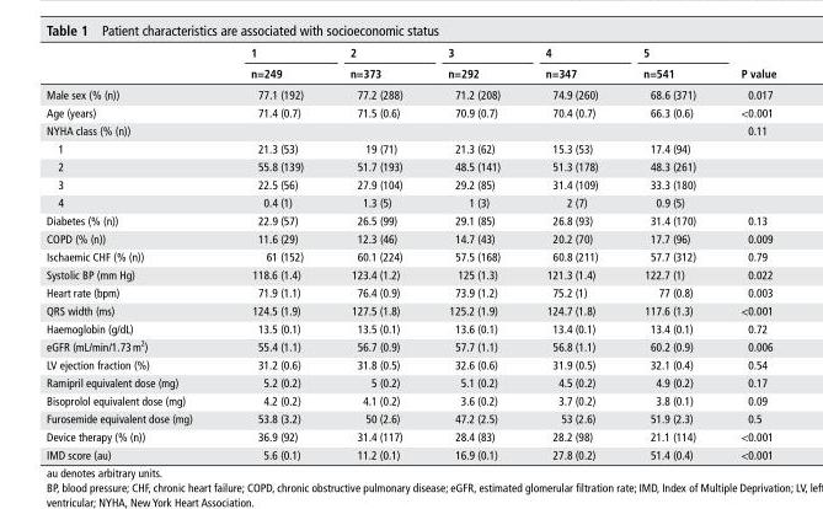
<table><thead><tr><td rowspan="2"></td><td rowspan="2">1 n=249</td><td rowspan="2">2 n=373</td><td rowspan="2">3 n=292</td><td rowspan="2">4 n=347</td><td rowspan="2">5 n=541</td><td rowspan="2">P value</td></tr><tr></tr></thead><tbody><tr><td>Male sex (% (n))</td><td>77.1 (192)</td><td>77.2 (288)</td><td>71.2 (208)</td><td>74.9 (260)</td><td>68.6 (371)</td><td>0.017</td></tr><tr><td>Age (years)</td><td>71.4 (0.7)</td><td>71.5 (0.6)</td><td>70.9 (0.7)</td><td>70.4 (0.7)</td><td>66.3 (0.6)</td><td>&lt;0.001</td></tr><tr><td>NYHA class (% (n))</td><td></td><td></td><td></td><td></td><td></td><td>0.11</td></tr><tr><td>1</td><td>21.3 (53)</td><td>19 (71)</td><td>21.3 (62)</td><td>15.3 (53)</td><td>17.4 (94)</td><td></td></tr><tr><td>2</td><td>55.8 (139)</td><td>51.7 (193)</td><td>48.5 (141)</td><td>51.3 (178)</td><td>48.3 (261)</td><td></td></tr><tr><td>3</td><td>22.5 (56)</td><td>27.9 (104)</td><td>29.2 (85)</td><td>31.4 (109)</td><td>33.3 (180)</td><td></td></tr><tr><td>4</td><td>0.4 (1)</td><td>1.3 (5)</td><td>1 (3)</td><td>2 (7)</td><td>0.9 (5)</td><td></td></tr><tr><td>Diabetes (% (n))</td><td>22.9 (57)</td><td>26.5 (99)</td><td>29.1 (85)</td><td>26.8 (93)</td><td>31.4 (170)</td><td>0.13</td></tr><tr><td>COPD (% (n))</td><td>11.6 (29)</td><td>12.3 (46)</td><td>14.7 (43)</td><td>20.2 (70)</td><td>17.7 (96)</td><td>0.009</td></tr><tr><td>Ischaemic CHF (% (n))</td><td>61 (152)</td><td>60.1 (224)</td><td>57.5 (168)</td><td>60.8 (211)</td><td>57.7 (312)</td><td>0.79</td></tr><tr><td>Systolic BP (mm Hg)</td><td>118.6 (1.4)</td><td>123.4 (1.2)</td><td>125 (1.3)</td><td>121.3 (1.4)</td><td>122.7 (1)</td><td>0.022</td></tr><tr><td>Heart rate (bpm)</td><td>71.9 (1.1)</td><td>76.4 (0.9)</td><td>73.9 (1.2)</td><td>75.2 (1)</td><td>77 (0.8)</td><td>0.003</td></tr><tr><td>QRS width (ms)</td><td>124.5 (1.9)</td><td>127.5 (1.8)</td><td>125.2 (1.9)</td><td>124.7 (1.8)</td><td>117.6 (1.3)</td><td>&lt;0.001</td></tr><tr><td>Haemoglobin (g/dL)</td><td>13.5 (0.1)</td><td>13.5 (0.1)</td><td>13.6 (0.1)</td><td>13.4 (0.1)</td><td>13.4 (0.1)</td><td>0.72</td></tr><tr><td>eGFR (mL/min/1.73 m<sup>2</sup>)</td><td>55.4 (1.1)</td><td>56.7 (0.9)</td><td>57.7 (1.1)</td><td>56.8 (1.1)</td><td>60.2 (0.9)</td><td>0.006</td></tr><tr><td>LV ejection fraction (%)</td><td>31.2 (0.6)</td><td>31.8 (0.5)</td><td>32.6 (0.6)</td><td>31.9 (0.5)</td><td>32.1 (0.4)</td><td>0.54</td></tr><tr><td>Ramipril equivalent dose (mg)</td><td>5.2 (0.2)</td><td>5 (0.2)</td><td>5.1 (0.2)</td><td>4.5 (0.2)</td><td>4.9 (0.2)</td><td>0.17</td></tr><tr><td>Bisoprolol equivalent dose (mg)</td><td>4.2 (0.2)</td><td>4.1 (0.2)</td><td>3.6 (0.2)</td><td>3.7 (0.2)</td><td>3.8 (0.1)</td><td>0.09</td></tr><tr><td>Furosemide equivalent dose (mg)</td><td>53.8 (3.2)</td><td>50 (2.6)</td><td>47.2 (2.5)</td><td>53 (2.6)</td><td>51.9 (2.3)</td><td>0.5</td></tr><tr><td>Device therapy (% (n))</td><td>36.9 (92)</td><td>31.4 (117)</td><td>28.4 (83)</td><td>28.2 (98)</td><td>21.1 (114)</td><td>&lt;0.001</td></tr><tr><td>IMD score (au)</td><td>5.6 (0.1)</td><td>11.2 (0.1)</td><td>16.9 (0.1)</td><td>27.8 (0.2)</td><td>51.4 (0.4)</td><td>&lt;0.001</td></tr></tbody></table>